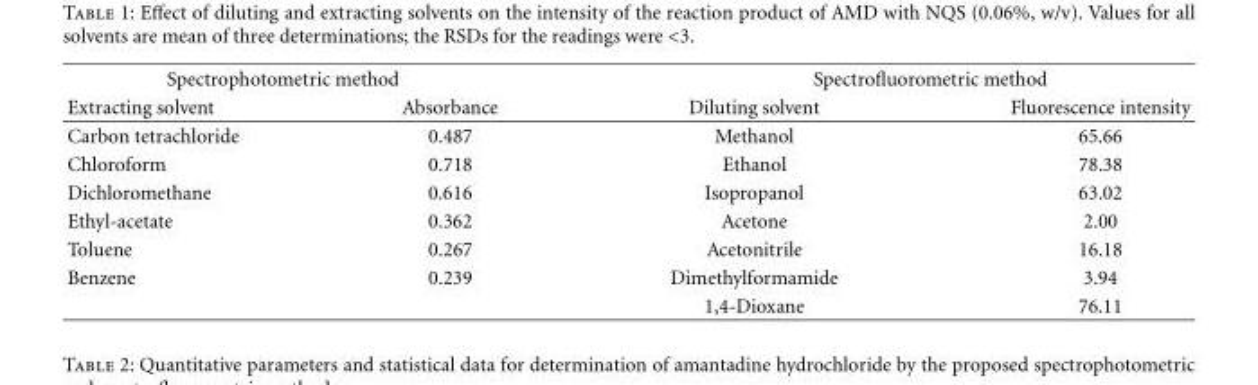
<table><thead><tr><td colspan="2">Spectrophotometric method</td><td colspan="2">Spectrofluorometric method</td></tr><tr><td>Extracting solvent</td><td>Absorbance</td><td>Diluting solvent</td><td>Fluorescence intensity</td></tr></thead><tbody><tr><td>Carbon tetrachloride</td><td>0.487</td><td>Methanol</td><td>65.66</td></tr><tr><td>Chloroform</td><td>0.718</td><td>Ethanol</td><td>78.38</td></tr><tr><td>Dichloromethane</td><td>0.616</td><td>Isopropanol</td><td>63.02</td></tr><tr><td>Ethyl-acetate</td><td>0.362</td><td>Acetone</td><td>2.00</td></tr><tr><td>Toluene</td><td>0.267</td><td>Acetonitrile</td><td>16.18</td></tr><tr><td rowspan="2">Benzene</td><td>0.239</td><td>Dimethylformamide</td><td>3.94</td></tr><tr><td></td><td>1,4-Dioxane</td><td>76.11</td></tr></tbody></table>